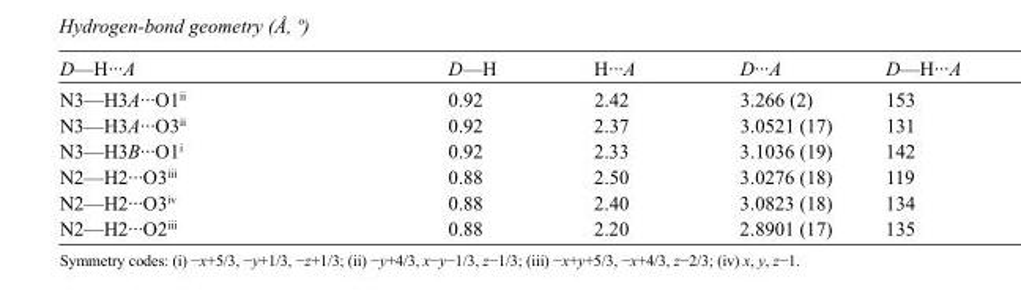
<table><tbody><tr><td>D—H···A</td><td>D—H</td><td>H···A</td><td>D···A</td><td>D—H···A</td></tr><tr><td>N3—H3A···O1<sup>ii</sup></td><td>0.92</td><td>2.42</td><td>3.266 (2)</td><td>153</td></tr><tr><td>N3—H3A···O3<sup>ii</sup></td><td>0.92</td><td>2.37</td><td>3.0521 (17)</td><td>131</td></tr><tr><td>N3—H3B···O1<sup>i</sup></td><td>0.92</td><td>2.33</td><td>3.1036 (19)</td><td>142</td></tr><tr><td>N2—H2···O3<sup>iii</sup></td><td>0.88</td><td>2.50</td><td>3.0276 (18)</td><td>119</td></tr><tr><td>N2—H2···O3<sup>iv</sup></td><td>0.88</td><td>2.40</td><td>3.0823 (18)</td><td>134</td></tr><tr><td>N2—H2···O2<sup>iii</sup></td><td>0.88</td><td>2.20</td><td>2.8901 (17)</td><td>135</td></tr></tbody></table>